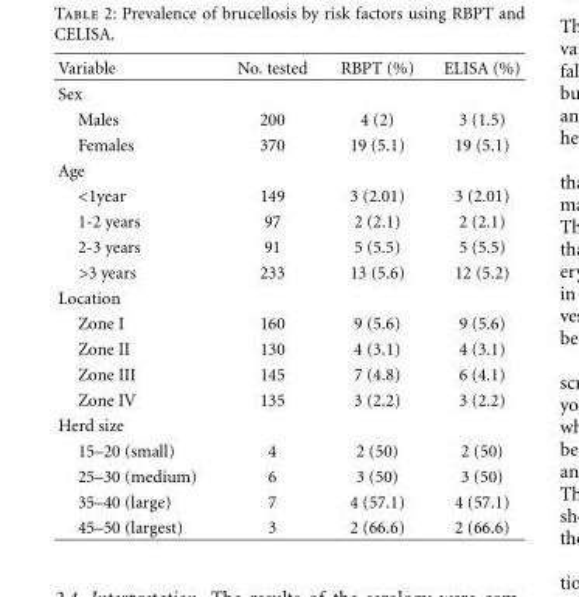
<table><thead><tr><td>Variable</td><td>No. tested</td><td>RBPT (%)</td><td>ELISA (%)</td></tr></thead><tbody><tr><td colspan="4">Sex</td></tr><tr><td>Males</td><td>200</td><td>4 (2)</td><td>3 (1.5)</td></tr><tr><td>Females</td><td>370</td><td>19 (5.1)</td><td>19 (5.1)</td></tr><tr><td colspan="4">Age</td></tr><tr><td>&lt;1year</td><td>149</td><td>3 (2.01)</td><td>3 (2.01)</td></tr><tr><td>1-2 years</td><td>97</td><td>2 (2.1)</td><td>2 (2.1)</td></tr><tr><td>2-3 years</td><td>91</td><td>5 (5.5)</td><td>5 (5.5)</td></tr><tr><td>&gt;3 years</td><td>233</td><td>13 (5.6)</td><td>12 (5.2)</td></tr><tr><td colspan="4">Location</td></tr><tr><td>Zone I</td><td>160</td><td>9 (5.6)</td><td>9 (5.6)</td></tr><tr><td>Zone II</td><td>130</td><td>4 (3.1)</td><td>4 (3.1)</td></tr><tr><td>Zone III</td><td>145</td><td>7 (4.8)</td><td>6 (4.1)</td></tr><tr><td>Zone IV</td><td>135</td><td>3 (2.2)</td><td>3 (2.2)</td></tr><tr><td colspan="4">Herd size</td></tr><tr><td>15–20 (small)</td><td>4</td><td>2 (50)</td><td>2 (50)</td></tr><tr><td>25–30 (medium)</td><td>6</td><td>3 (50)</td><td>3 (50)</td></tr><tr><td>35–40 (large)</td><td>7</td><td>4 (57.1)</td><td>4 (57.1)</td></tr><tr><td>45–50 (largest)</td><td>3</td><td>2 (66.6)</td><td>2 (66.6)</td></tr></tbody></table>